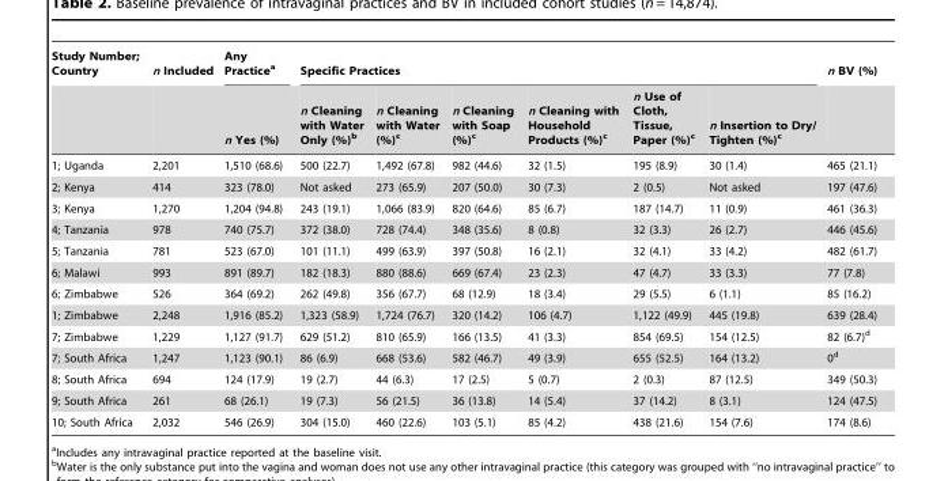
<table><thead><tr><td rowspan="2">Study Number; Country</td><td rowspan="2">n Included</td><td rowspan="2">Any Practice<sup>a</sup> n Yes (%)</td><td colspan="6">Specific Practices</td><td rowspan="2">n BV (%)</td></tr><tr><td>n Cleaning with Water Only (%)<sup>b</sup></td><td>n Cleaning with Water (%)<sup>c</sup></td><td>n Cleaning with Soap (%)<sup>c</sup></td><td>n Cleaning with Household Products (%)<sup>c</sup></td><td>n Use of Cloth, Tissue, Paper (%)<sup>c</sup></td><td>n Insertion to Dry/ Tighten (%)<sup>c</sup></td></tr></thead><tbody><tr><td>1; Uganda</td><td>2,201</td><td>1,510 (68.6)</td><td>500 (22.7)</td><td>1,492 (67.8)</td><td>982 (44.6)</td><td>32 (1.5)</td><td>195 (8.9)</td><td>30 (1.4)</td><td>465 (21.1)</td></tr><tr><td>2; Kenya</td><td>414</td><td>323 (78.0)</td><td>Not asked</td><td>273 (65.9)</td><td>207 (50.0)</td><td>30 (7.3)</td><td>2 (0.5)</td><td>Not asked</td><td>197 (47.6)</td></tr><tr><td>3; Kenya</td><td>1,270</td><td>1,204 (94.8)</td><td>243 (19.1)</td><td>1,066 (83.9)</td><td>820 (64.6)</td><td>85 (6.7)</td><td>187 (14.7)</td><td>11 (0.9)</td><td>461 (36.3)</td></tr><tr><td>4; Tanzania</td><td>978</td><td>740 (75.7)</td><td>372 (38.0)</td><td>728 (74.4)</td><td>348 (35.6)</td><td>8 (0.8)</td><td>32 (3.3)</td><td>26 (2.7)</td><td>446 (45.6)</td></tr><tr><td>5; Tanzania</td><td>781</td><td>523 (67.0)</td><td>101 (11.1)</td><td>499 (63.9)</td><td>397 (50.8)</td><td>16 (2.1)</td><td>32 (4.1)</td><td>33 (4.2)</td><td>482 (61.7)</td></tr><tr><td>6; Malawi</td><td>993</td><td>891 (89.7)</td><td>182 (18.3)</td><td>880 (88.6)</td><td>669 (67.4)</td><td>23 (2.3)</td><td>47 (4.7)</td><td>33 (3.3)</td><td>77 (7.8)</td></tr><tr><td>6; Zimbabwe</td><td>526</td><td>364 (69.2)</td><td>262 (49.8)</td><td>356 (67.7)</td><td>68 (12.9)</td><td>18 (3.4)</td><td>29 (5.5)</td><td>6 (1.1)</td><td>85 (16.2)</td></tr><tr><td>1; Zimbabwe</td><td>2,248</td><td>1,916 (85.2)</td><td>1,323 (58.9)</td><td>1,724 (76.7)</td><td>320 (14.2)</td><td>106 (4.7)</td><td>1,122 (49.9)</td><td>445 (19.8)</td><td>639 (28.4)</td></tr><tr><td>7; Zimbabwe</td><td>1,229</td><td>1,127 (91.7)</td><td>629 (51.2)</td><td>810 (65.9)</td><td>166 (13.5)</td><td>41 (3.3)</td><td>854 (69.5)</td><td>154 (12.5)</td><td>82 (6.7)<sup>d</sup></td></tr><tr><td>7; South Africa</td><td>1,247</td><td>1,123 (90.1)</td><td>86 (6.9)</td><td>668 (53.6)</td><td>582 (46.7)</td><td>49 (3.9)</td><td>655 (52.5)</td><td>164 (13.2)</td><td>0<sup>d</sup></td></tr><tr><td>8; South Africa</td><td>694</td><td>124 (17.9)</td><td>19 (2.7)</td><td>44 (6.3)</td><td>17 (2.5)</td><td>5 (0.7)</td><td>2 (0.3)</td><td>87 (12.5)</td><td>349 (50.3)</td></tr><tr><td>9; South Africa</td><td>261</td><td>68 (26.1)</td><td>19 (7.3)</td><td>56 (21.5)</td><td>36 (13.8)</td><td>14 (5.4)</td><td>37 (14.2)</td><td>8 (3.1)</td><td>124 (47.5)</td></tr><tr><td>10; South Africa</td><td>2,032</td><td>546 (26.9)</td><td>304 (15.0)</td><td>460 (22.6)</td><td>103 (5.1)</td><td>85 (4.2)</td><td>438 (21.6)</td><td>154 (7.6)</td><td>174 (8.6)</td></tr></tbody></table>